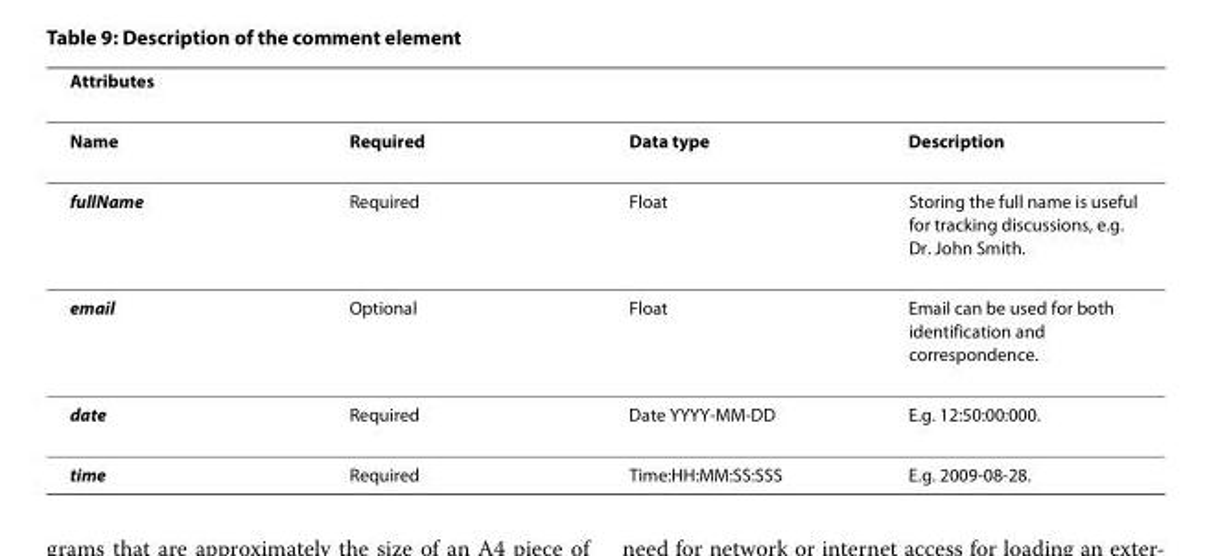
<table><thead><tr><td>Attributes</td><td></td><td></td><td></td></tr></thead><tbody><tr><td>Name</td><td>Required</td><td>Data type</td><td>Description</td></tr><tr><td>fullName</td><td>Required</td><td>Float</td><td>Storing the full name is useful for tracking discussions, e.g. Dr. John Smith.</td></tr><tr><td>email</td><td>Optional</td><td>Float</td><td>Email can be used for both identification and correspondence.</td></tr><tr><td>date</td><td>Required</td><td>Date YYYY-MM-DD</td><td>E.g. 12:50:00:000.</td></tr><tr><td>time</td><td>Required</td><td>Time:HH:MM:SS:SSS</td><td>E.g. 2009-08-28.</td></tr></tbody></table>